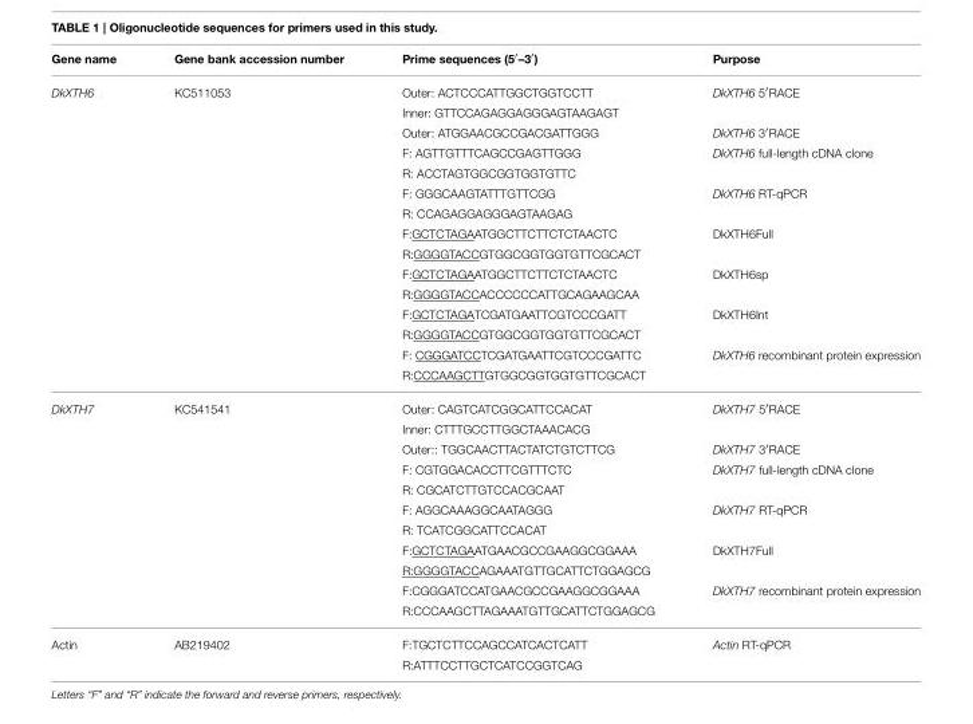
<table><thead><tr><td>Gene name</td><td>Gene bank accession number</td><td>Prime sequences (5′–3′)</td><td>Purpose</td></tr></thead><tbody><tr><td rowspan="15">DkXTH6</td><td>KC511053</td><td>Outer: ACTCCCATTGGCTGGTCCTT</td><td>DkXTH6 5′RACE</td></tr><tr><td></td><td>Inner: GTTCCAGAGGAGGGAGTAAGAGT</td><td></td></tr><tr><td></td><td>Outer: ATGGAACGCCGACGATTGGG</td><td>DkXTH6 3′RACE</td></tr><tr><td></td><td>F: AGTTGTTTCAGCCGAGTTGGG</td><td>DkXTH6 full-length cDNA clone</td></tr><tr><td></td><td>R: ACCTAGTGGCGGTGGTGTTC</td><td></td></tr><tr><td></td><td>F: GGGCAAGTATTTGTTCGG</td><td>DkXTH6 RT-qPCR</td></tr><tr><td></td><td>R: CCAGAGGAGGGAGTAAGAG</td><td></td></tr><tr><td></td><td>F:GCTCTAGAATGGCTTCTTCTCTAACTC</td><td>DkXTH6Full</td></tr><tr><td></td><td>R:GGGGTACCGTGGCGGTGGTGTTCGCACT</td><td></td></tr><tr><td></td><td>F:GCTCTAGAATGGCTTCTTCTCTAACTC</td><td>DkXTH6sp</td></tr><tr><td></td><td>R:GGGGTACCACCCCCCATTGCAGAAGCAA</td><td></td></tr><tr><td></td><td>F:GCTCTAGATCGATGAATTCGTCCCGATT</td><td>DkXTH6Int</td></tr><tr><td></td><td>R:GGGGTACCGTGGCGGTGGTGTTCGCACT</td><td></td></tr><tr><td></td><td>F: CGGGATCCTCGATGAATTCGTCCCGATTC</td><td>DkXTH6 recombinant protein expression</td></tr><tr><td></td><td>R:CCCAAGCTTGTGGCGGTGGTGTTCGCACT</td><td></td></tr><tr><td rowspan="11">DkXTH7</td><td>KC541541</td><td>Outer: CAGTCATCGGCATTCCACAT</td><td>DkXTH7 5′RACE</td></tr><tr><td></td><td>Inner: CTTTGCCTTGGCTAAACACG</td><td></td></tr><tr><td></td><td>Outer:: TGGCAACTTACTATCTGTCTTCG</td><td>DkXTH7 3′RACE</td></tr><tr><td></td><td>F: CGTGGACACCTTCGTTTCTC</td><td>DkXTH7 full-length cDNA clone</td></tr><tr><td></td><td>R: CGCATCTTGTCCACGCAAT</td><td></td></tr><tr><td></td><td>F: AGGCAAAGGCAATAGGG</td><td>DkXTH7 RT-qPCR</td></tr><tr><td></td><td>R: TCATCGGCATTCCACAT</td><td></td></tr><tr><td></td><td>F:GCTCTAGAATGAACGCCGAAGGCGGAAA</td><td>DkXTH7Full</td></tr><tr><td></td><td>R:GGGGTACCAGAAATGTTGCATTCTGGAGCG</td><td></td></tr><tr><td></td><td>F:CGGGATCCATGAACGCCGAAGGCGGAAA</td><td>DkXTH7 recombinant protein expression</td></tr><tr><td></td><td>R:CCCAAGCTTAGAAATGTTGCATTCTGGAGCG</td><td></td></tr><tr><td rowspan="2">Actin</td><td>AB219402</td><td>F:TGCTCTTCCAGCCATCACTCATT</td><td>Actin RT-qPCR</td></tr><tr><td></td><td>R:ATTTCCTTGCTCATCCGGTCAG</td><td></td></tr></tbody></table>